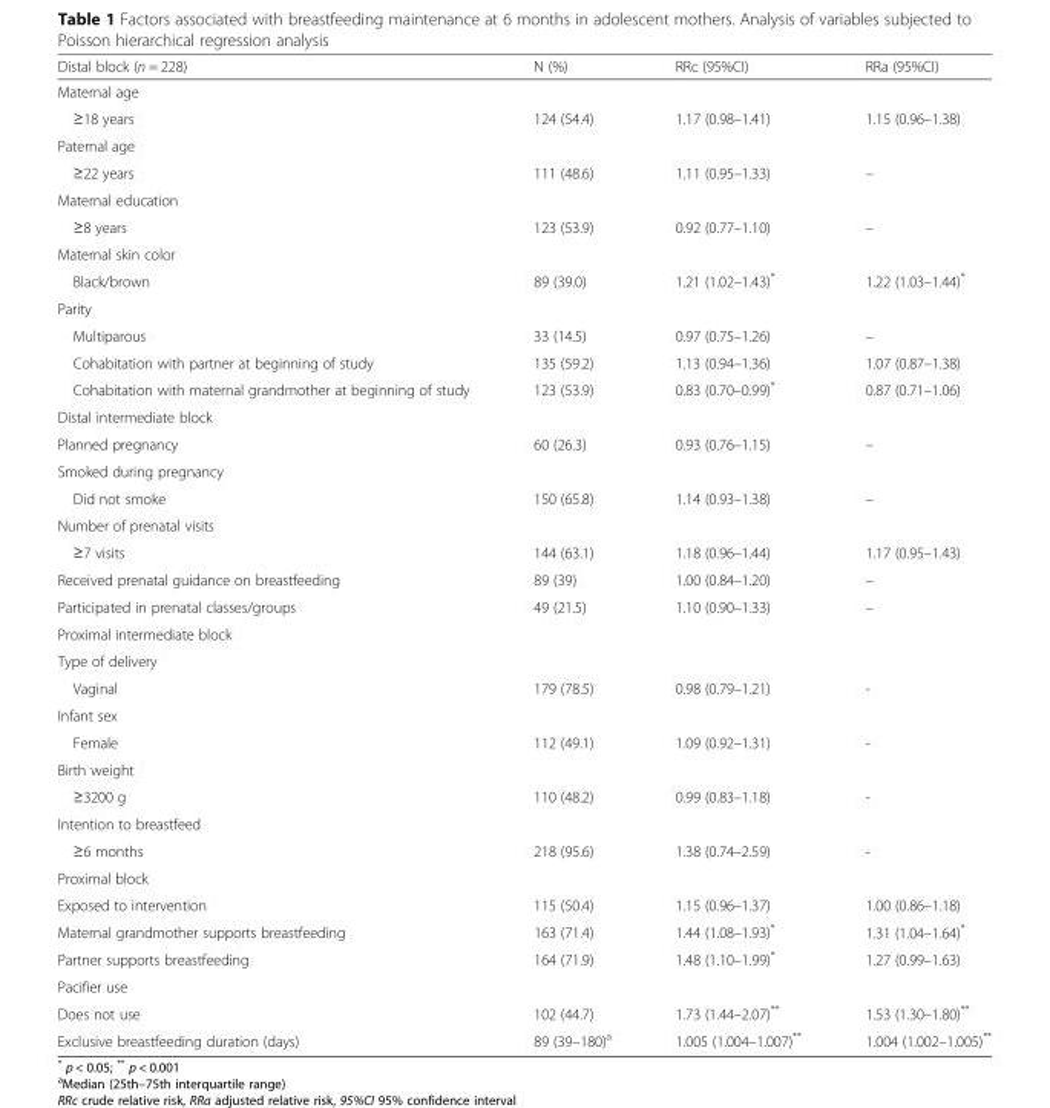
<table><thead><tr><td>Distal block (n = 228)</td><td>N (%)</td><td>RRc (95%CI)</td><td>RRa (95%CI)</td></tr></thead><tbody><tr><td colspan="4">Maternal age</td></tr><tr><td>≥18 years</td><td>124 (54.4)</td><td>1.17 (0.98–1.41)</td><td>1.15 (0.96–1.38)</td></tr><tr><td colspan="4">Paternal age</td></tr><tr><td>≥22 years</td><td>111 (48.6)</td><td>1.11 (0.95–1.33)</td><td>–</td></tr><tr><td colspan="4">Maternal education</td></tr><tr><td>≥8 years</td><td>123 (53.9)</td><td>0.92 (0.77–1.10)</td><td>–</td></tr><tr><td colspan="4">Maternal skin color</td></tr><tr><td>Black/brown</td><td>89 (39.0)</td><td>1.21 (1.02–1.43)*</td><td>1.22 (1.03–1.44)*</td></tr><tr><td colspan="4">Parity</td></tr><tr><td>Multiparous</td><td>33 (14.5)</td><td>0.97 (0.75–1.26)</td><td>–</td></tr><tr><td>Cohabitation with partner at beginning of study</td><td>135 (59.2)</td><td>1.13 (0.94–1.36)</td><td>1.07 (0.87–1.38)</td></tr><tr><td>Cohabitation with maternal grandmother at beginning of study</td><td>123 (53.9)</td><td>0.83 (0.70–0.99)*</td><td>0.87 (0.71–1.06)</td></tr><tr><td colspan="4">Distal intermediate block</td></tr><tr><td>Planned pregnancy</td><td>60 (26.3)</td><td>0.93 (0.76–1.15)</td><td>–</td></tr><tr><td colspan="4">Smoked during pregnancy</td></tr><tr><td>Did not smoke</td><td>150 (65.8)</td><td>1.14 (0.93–1.38)</td><td>–</td></tr><tr><td colspan="4">Number of prenatal visits</td></tr><tr><td>≥7 visits</td><td>144 (63.1)</td><td>1.18 (0.96–1.44)</td><td>1.17 (0.95–1.43)</td></tr><tr><td>Received prenatal guidance on breastfeeding</td><td>89 (39)</td><td>1.00 (0.84–1.20)</td><td>–</td></tr><tr><td>Participated in prenatal classes/groups</td><td>49 (21.5)</td><td>1.10 (0.90–1.33)</td><td>–</td></tr><tr><td colspan="4">Proximal intermediate block</td></tr><tr><td colspan="4">Type of delivery</td></tr><tr><td>Vaginal</td><td>179 (78.5)</td><td>0.98 (0.79–1.21)</td><td>-</td></tr><tr><td colspan="4">Infant sex</td></tr><tr><td>Female</td><td>112 (49.1)</td><td>1.09 (0.92–1.31)</td><td>-</td></tr><tr><td colspan="4">Birth weight</td></tr><tr><td>≥3200 g</td><td>110 (48.2)</td><td>0.99 (0.83–1.18)</td><td>-</td></tr><tr><td colspan="4">Intention to breastfeed</td></tr><tr><td>≥6 months</td><td>218 (95.6)</td><td>1.38 (0.74–2.59)</td><td>-</td></tr><tr><td colspan="4">Proximal block</td></tr><tr><td>Exposed to intervention</td><td>115 (50.4)</td><td>1.15 (0.96–1.37)</td><td>1.00 (0.86–1.18)</td></tr><tr><td>Maternal grandmother supports breastfeeding</td><td>163 (71.4)</td><td>1.44 (1.08–1.93)*</td><td>1.31 (1.04–1.64)*</td></tr><tr><td>Partner supports breastfeeding</td><td>164 (71.9)</td><td>1.48 (1.10–1.99)*</td><td>1.27 (0.99–1.63)</td></tr><tr><td colspan="4">Pacifier use</td></tr><tr><td>Does not use</td><td>102 (44.7)</td><td>1.73 (1.44–2.07)**</td><td>1.53 (1.30–1.80)**</td></tr><tr><td>Exclusive breastfeeding duration (days)</td><td>89 (39–180)<sup>a</sup></td><td>1.005 (1.004–1.007)**</td><td>1.004 (1.002–1.005)**</td></tr></tbody></table>